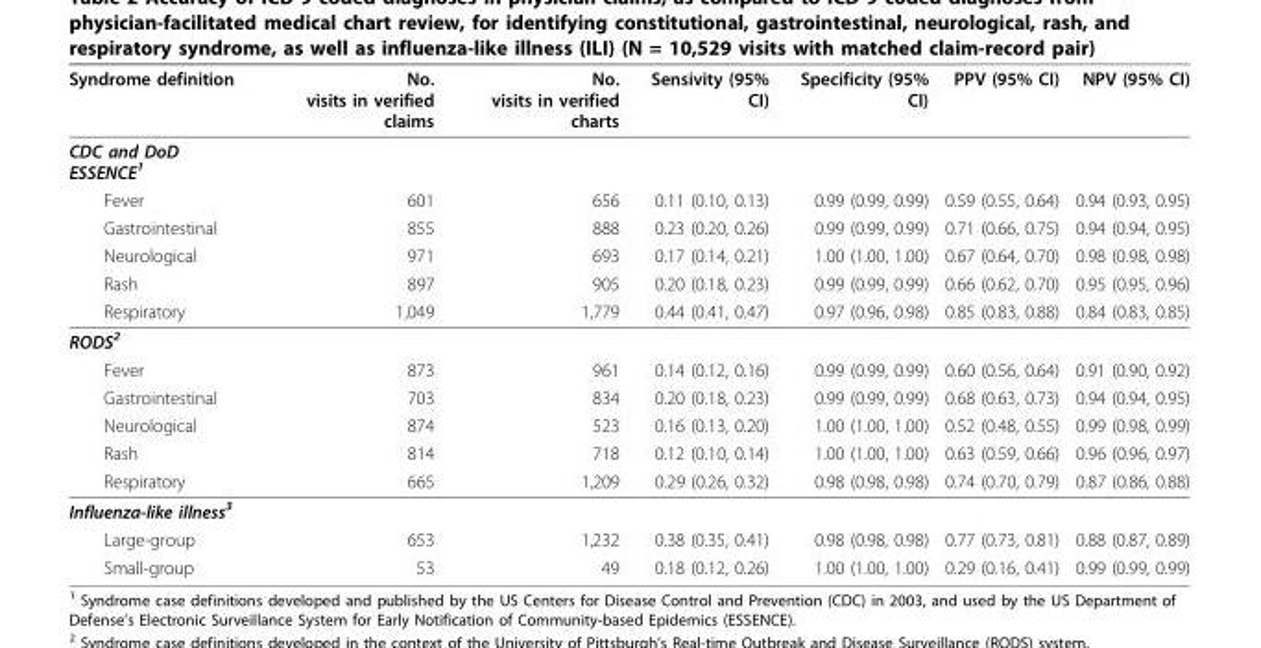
<table><thead><tr><td>Syndrome definition</td><td>No. visits in verified claims</td><td>No. visits in verified charts</td><td>Sensivity (95% CI)</td><td>Specificity (95% CI)</td><td>PPV (95% CI)</td><td>NPV (95% CI)</td></tr></thead><tbody><tr><td colspan="7">CDC and DoD ESSENCE<sup>1</sup></td></tr><tr><td>Fever</td><td>601</td><td>656</td><td>0.11 (0.10, 0.13)</td><td>0.99 (0.99, 0.99)</td><td>0.59 (0.55, 0.64)</td><td>0.94 (0.93, 0.95)</td></tr><tr><td>Gastrointestinal</td><td>855</td><td>888</td><td>0.23 (0.20, 0.26)</td><td>0.99 (0.99, 0.99)</td><td>0.71 (0.66, 0.75)</td><td>0.94 (0.94, 0.95)</td></tr><tr><td>Neurological</td><td>971</td><td>693</td><td>0.17 (0.14, 0.21)</td><td>1.00 (1.00, 1.00)</td><td>0.67 (0.64, 0.70)</td><td>0.98 (0.98, 0.98)</td></tr><tr><td>Rash</td><td>897</td><td>905</td><td>0.20 (0.18, 0.23)</td><td>0.99 (0.99, 0.99)</td><td>0.66 (0.62, 0.70)</td><td>0.95 (0.95, 0.96)</td></tr><tr><td>Respiratory</td><td>1,049</td><td>1,779</td><td>0.44 (0.41, 0.47)</td><td>0.97 (0.96, 0.98)</td><td>0.85 (0.83, 0.88)</td><td>0.84 (0.83, 0.85)</td></tr><tr><td colspan="7">RODS<sup>2</sup></td></tr><tr><td>Fever</td><td>873</td><td>961</td><td>0.14 (0.12, 0.16)</td><td>0.99 (0.99, 0.99)</td><td>0.60 (0.56, 0.64)</td><td>0.91 (0.90, 0.92)</td></tr><tr><td>Gastrointestinal</td><td>703</td><td>834</td><td>0.20 (0.18, 0.23)</td><td>0.99 (0.99, 0.99)</td><td>0.68 (0.63, 0.73)</td><td>0.94 (0.94, 0.95)</td></tr><tr><td>Neurological</td><td>874</td><td>523</td><td>0.16 (0.13, 0.20)</td><td>1.00 (1.00, 1.00)</td><td>0.52 (0.48, 0.55)</td><td>0.99 (0.98, 0.99)</td></tr><tr><td>Rash</td><td>814</td><td>718</td><td>0.12 (0.10, 0.14)</td><td>1.00 (1.00, 1.00)</td><td>0.63 (0.59, 0.66)</td><td>0.96 (0.96, 0.97)</td></tr><tr><td>Respiratory</td><td>665</td><td>1,209</td><td>0.29 (0.26, 0.32)</td><td>0.98 (0.98, 0.98)</td><td>0.74 (0.70, 0.79)</td><td>0.87 (0.86, 0.88)</td></tr><tr><td colspan="7">Influenza-like illness<sup>3</sup></td></tr><tr><td>Large-group</td><td>653</td><td>1,232</td><td>0.38 (0.35, 0.41)</td><td>0.98 (0.98, 0.98)</td><td>0.77 (0.73, 0.81)</td><td>0.88 (0.87, 0.89)</td></tr><tr><td>Small-group</td><td>53</td><td>49</td><td>0.18 (0.12, 0.26)</td><td>1.00 (1.00, 1.00)</td><td>0.29 (0.16, 0.41)</td><td>0.99 (0.99, 0.99)</td></tr></tbody></table>